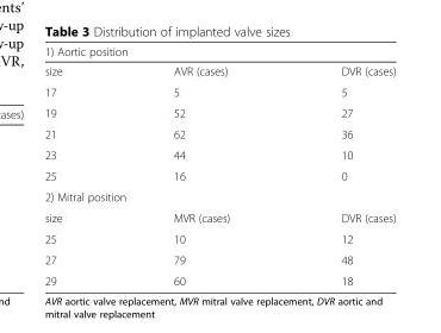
<table><thead><tr><td colspan="3">1) Aortic position</td></tr><tr><td>size</td><td>AVR (cases)</td><td>DVR (cases)</td></tr></thead><tbody><tr><td>17</td><td>5</td><td>5</td></tr><tr><td>19</td><td>52</td><td>27</td></tr><tr><td>21</td><td>62</td><td>36</td></tr><tr><td>23</td><td>44</td><td>10</td></tr><tr><td>25</td><td>16</td><td>0</td></tr><tr><td colspan="3">2) Mitral position</td></tr><tr><td>size</td><td>MVR (cases)</td><td>DVR (cases)</td></tr><tr><td>25</td><td>10</td><td>12</td></tr><tr><td>27</td><td>79</td><td>48</td></tr><tr><td>29</td><td>60</td><td>18</td></tr></tbody></table>